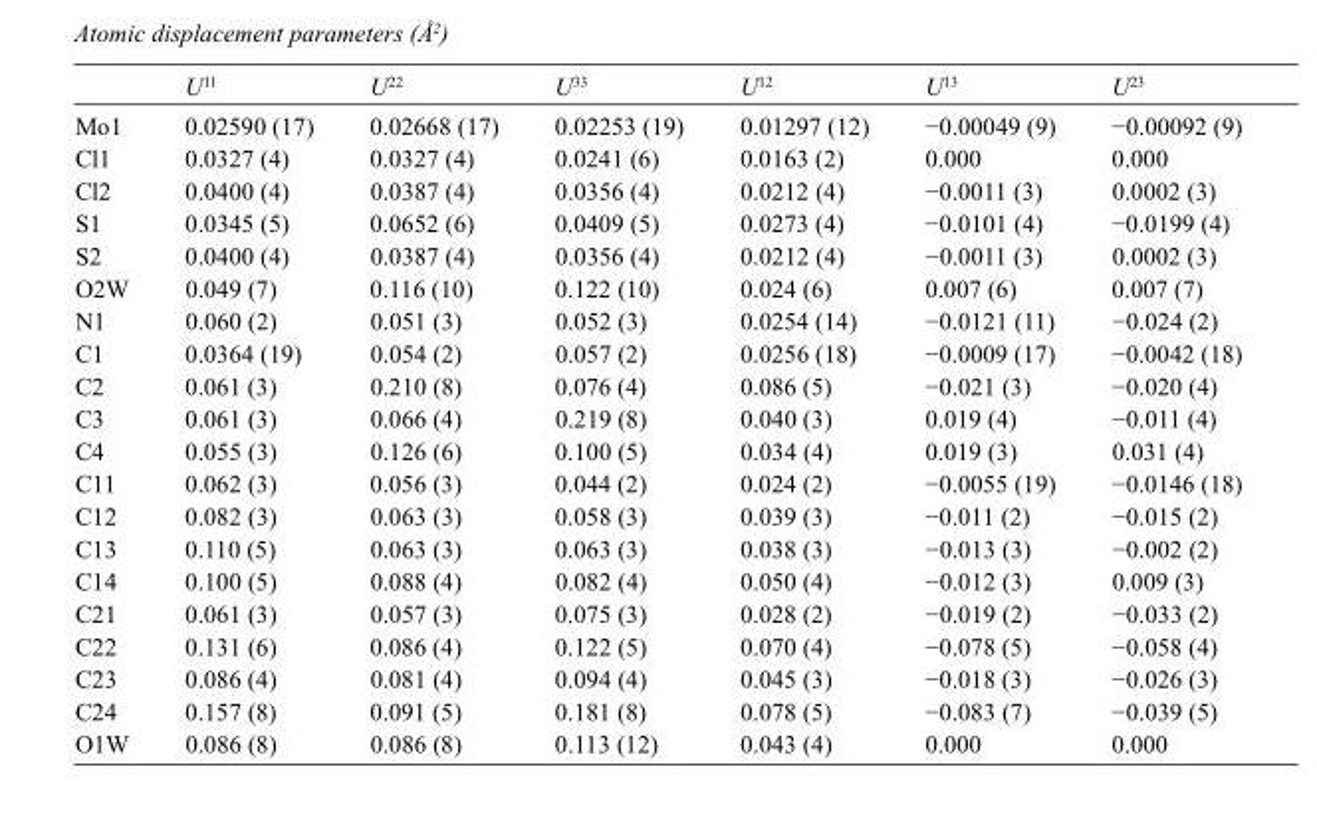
<table><thead><tr><td></td><td>U<sup>11</sup></td><td>U<sup>22</sup></td><td>U<sup>33</sup></td><td>U<sup>12</sup></td><td>U<sup>13</sup></td><td>U<sup>23</sup></td></tr></thead><tbody><tr><td>Mo1</td><td>0.02590 (17)</td><td>0.02668 (17)</td><td>0.02253 (19)</td><td>0.01297 (12)</td><td>−0.00049 (9)</td><td>−0.00092 (9)</td></tr><tr><td>Cl1</td><td>0.0327 (4)</td><td>0.0327 (4)</td><td>0.0241 (6)</td><td>0.0163 (2)</td><td>0.000</td><td>0.000</td></tr><tr><td>Cl2</td><td>0.0400 (4)</td><td>0.0387 (4)</td><td>0.0356 (4)</td><td>0.0212 (4)</td><td>−0.0011 (3)</td><td>0.0002 (3)</td></tr><tr><td>S1</td><td>0.0345 (5)</td><td>0.0652 (6)</td><td>0.0409 (5)</td><td>0.0273 (4)</td><td>−0.0101 (4)</td><td>−0.0199 (4)</td></tr><tr><td>S2</td><td>0.0400 (4)</td><td>0.0387 (4)</td><td>0.0356 (4)</td><td>0.0212 (4)</td><td>−0.0011 (3)</td><td>0.0002 (3)</td></tr><tr><td>O2W</td><td>0.049 (7)</td><td>0.116 (10)</td><td>0.122 (10)</td><td>0.024 (6)</td><td>0.007 (6)</td><td>0.007 (7)</td></tr><tr><td>N1</td><td>0.060 (2)</td><td>0.051 (3)</td><td>0.052 (3)</td><td>0.0254 (14)</td><td>−0.0121 (11)</td><td>−0.024 (2)</td></tr><tr><td>C1</td><td>0.0364 (19)</td><td>0.054 (2)</td><td>0.057 (2)</td><td>0.0256 (18)</td><td>−0.0009 (17)</td><td>−0.0042 (18)</td></tr><tr><td>C2</td><td>0.061 (3)</td><td>0.210 (8)</td><td>0.076 (4)</td><td>0.086 (5)</td><td>−0.021 (3)</td><td>−0.020 (4)</td></tr><tr><td>C3</td><td>0.061 (3)</td><td>0.066 (4)</td><td>0.219 (8)</td><td>0.040 (3)</td><td>0.019 (4)</td><td>−0.011 (4)</td></tr><tr><td>C4</td><td>0.055 (3)</td><td>0.126 (6)</td><td>0.100 (5)</td><td>0.034 (4)</td><td>0.019 (3)</td><td>0.031 (4)</td></tr><tr><td>C11</td><td>0.062 (3)</td><td>0.056 (3)</td><td>0.044 (2)</td><td>0.024 (2)</td><td>−0.0055 (19)</td><td>−0.0146 (18)</td></tr><tr><td>C12</td><td>0.082 (3)</td><td>0.063 (3)</td><td>0.058 (3)</td><td>0.039 (3)</td><td>−0.011 (2)</td><td>−0.015 (2)</td></tr><tr><td>C13</td><td>0.110 (5)</td><td>0.063 (3)</td><td>0.063 (3)</td><td>0.038 (3)</td><td>−0.013 (3)</td><td>−0.002 (2)</td></tr><tr><td>C14</td><td>0.100 (5)</td><td>0.088 (4)</td><td>0.082 (4)</td><td>0.050 (4)</td><td>−0.012 (3)</td><td>0.009 (3)</td></tr><tr><td>C21</td><td>0.061 (3)</td><td>0.057 (3)</td><td>0.075 (3)</td><td>0.028 (2)</td><td>−0.019 (2)</td><td>−0.033 (2)</td></tr><tr><td>C22</td><td>0.131 (6)</td><td>0.086 (4)</td><td>0.122 (5)</td><td>0.070 (4)</td><td>−0.078 (5)</td><td>−0.058 (4)</td></tr><tr><td>C23</td><td>0.086 (4)</td><td>0.081 (4)</td><td>0.094 (4)</td><td>0.045 (3)</td><td>−0.018 (3)</td><td>−0.026 (3)</td></tr><tr><td>C24</td><td>0.157 (8)</td><td>0.091 (5)</td><td>0.181 (8)</td><td>0.078 (5)</td><td>−0.083 (7)</td><td>−0.039 (5)</td></tr><tr><td>O1W</td><td>0.086 (8)</td><td>0.086 (8)</td><td>0.113 (12)</td><td>0.043 (4)</td><td>0.000</td><td>0.000</td></tr></tbody></table>